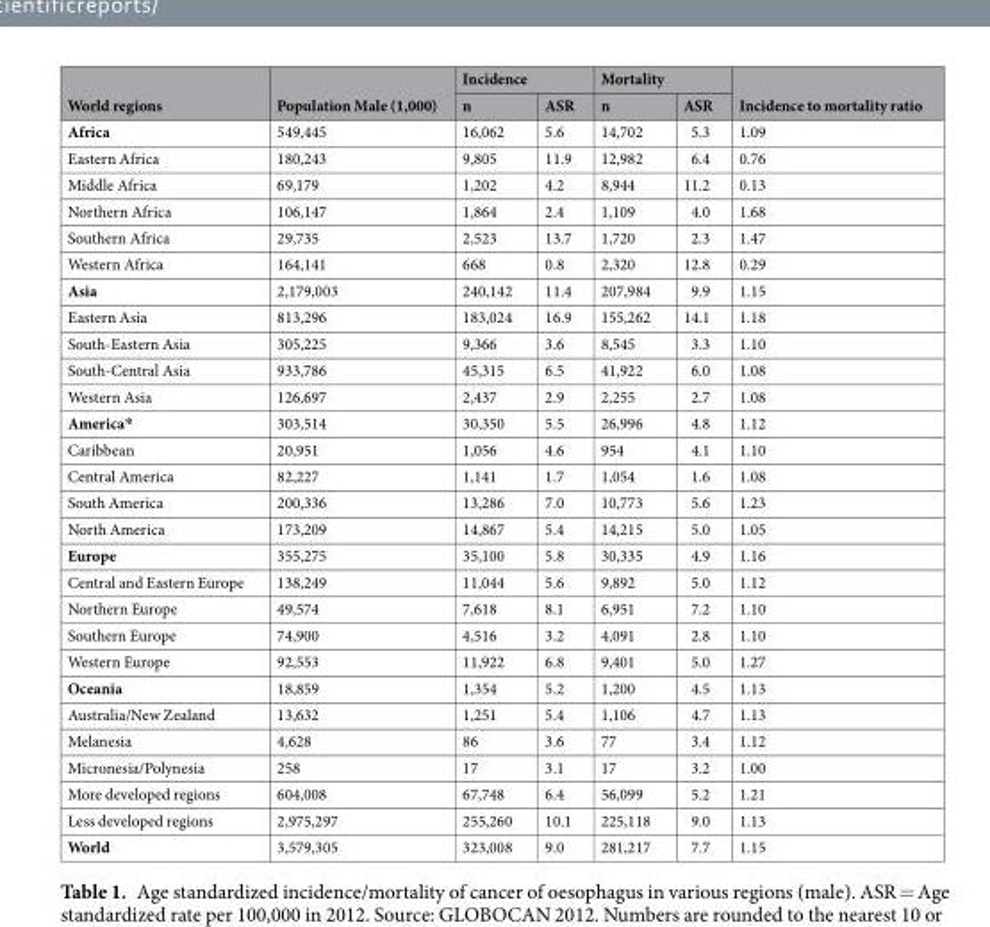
<table><thead><tr><td rowspan="2">World regions</td><td rowspan="2">Population Male (1,000)</td><td colspan="2">Incidence</td><td colspan="2">Mortality</td><td rowspan="2">Incidence to mortality ratio</td></tr><tr><td>n</td><td>ASR</td><td>n</td><td>ASR</td></tr></thead><tbody><tr><td>Africa</td><td>549,445</td><td>16,062</td><td>5.6</td><td>14,702</td><td>5.3</td><td>1.09</td></tr><tr><td>Eastern Africa</td><td>180,243</td><td>9,805</td><td>11.9</td><td>12,982</td><td>6.4</td><td>0.76</td></tr><tr><td>Middle Africa</td><td>69,179</td><td>1,202</td><td>4.2</td><td>8,944</td><td>11.2</td><td>0.13</td></tr><tr><td>Northern Africa</td><td>106,147</td><td>1,864</td><td>2.4</td><td>1,109</td><td>4.0</td><td>1.68</td></tr><tr><td>Southern Africa</td><td>29,735</td><td>2,523</td><td>13.7</td><td>1,720</td><td>2.3</td><td>1.47</td></tr><tr><td>Western Africa</td><td>164,141</td><td>668</td><td>0.8</td><td>2,320</td><td>12.8</td><td>0.29</td></tr><tr><td>Asia</td><td>2,179,003</td><td>240,142</td><td>11.4</td><td>207,984</td><td>9.9</td><td>1.15</td></tr><tr><td>Eastern Asia</td><td>813,296</td><td>183,024</td><td>16.9</td><td>155,262</td><td>14.1</td><td>1.18</td></tr><tr><td>South-Eastern Asia</td><td>305,225</td><td>9,366</td><td>3.6</td><td>8,545</td><td>3.3</td><td>1.10</td></tr><tr><td>South-Central Asia</td><td>933,786</td><td>45,315</td><td>6.5</td><td>41,922</td><td>6.0</td><td>1.08</td></tr><tr><td>Western Asia</td><td>126,697</td><td>2,437</td><td>2.9</td><td>2,255</td><td>2.7</td><td>1.08</td></tr><tr><td>America*</td><td>303,514</td><td>30,350</td><td>5.5</td><td>26,996</td><td>4.8</td><td>1.12</td></tr><tr><td>Caribbean</td><td>20,951</td><td>1,056</td><td>4.6</td><td>954</td><td>4.1</td><td>1.10</td></tr><tr><td>Central America</td><td>82,227</td><td>1,141</td><td>1.7</td><td>1,054</td><td>1.6</td><td>1.08</td></tr><tr><td>South America</td><td>200,336</td><td>13,286</td><td>7.0</td><td>10,773</td><td>5.6</td><td>1.23</td></tr><tr><td>North America</td><td>173,209</td><td>14,867</td><td>5.4</td><td>14,215</td><td>5.0</td><td>1.05</td></tr><tr><td>Europe</td><td>355,275</td><td>35,100</td><td>5.8</td><td>30,335</td><td>4.9</td><td>1.16</td></tr><tr><td>Central and Eastern Europe</td><td>138,249</td><td>11,044</td><td>5.6</td><td>9,892</td><td>5.0</td><td>1.12</td></tr><tr><td>Northern Europe</td><td>49,574</td><td>7,618</td><td>8.1</td><td>6,951</td><td>7.2</td><td>1.10</td></tr><tr><td>Southern Europe</td><td>74,900</td><td>4,516</td><td>3.2</td><td>4,091</td><td>2.8</td><td>1.10</td></tr><tr><td>Western Europe</td><td>92,553</td><td>11,922</td><td>6.8</td><td>9,401</td><td>5.0</td><td>1.27</td></tr><tr><td>Oceania</td><td>18,859</td><td>1,354</td><td>5.2</td><td>1,200</td><td>4.5</td><td>1.13</td></tr><tr><td>Australia/New Zealand</td><td>13,632</td><td>1,251</td><td>5.4</td><td>1,106</td><td>4.7</td><td>1.13</td></tr><tr><td>Melanesia</td><td>4,628</td><td>86</td><td>3.6</td><td>77</td><td>3.4</td><td>1.12</td></tr><tr><td>Micronesia/Polynesia</td><td>258</td><td>17</td><td>3.1</td><td>17</td><td>3.2</td><td>1.00</td></tr><tr><td>More developed regions</td><td>604,008</td><td>67,748</td><td>6.4</td><td>56,099</td><td>5.2</td><td>1.21</td></tr><tr><td>Less developed regions</td><td>2,975,297</td><td>255,260</td><td>10.1</td><td>225,118</td><td>9.0</td><td>1.13</td></tr><tr><td>World</td><td>3,579,305</td><td>323,008</td><td>9.0</td><td>281,217</td><td>7.7</td><td>1.15</td></tr></tbody></table>